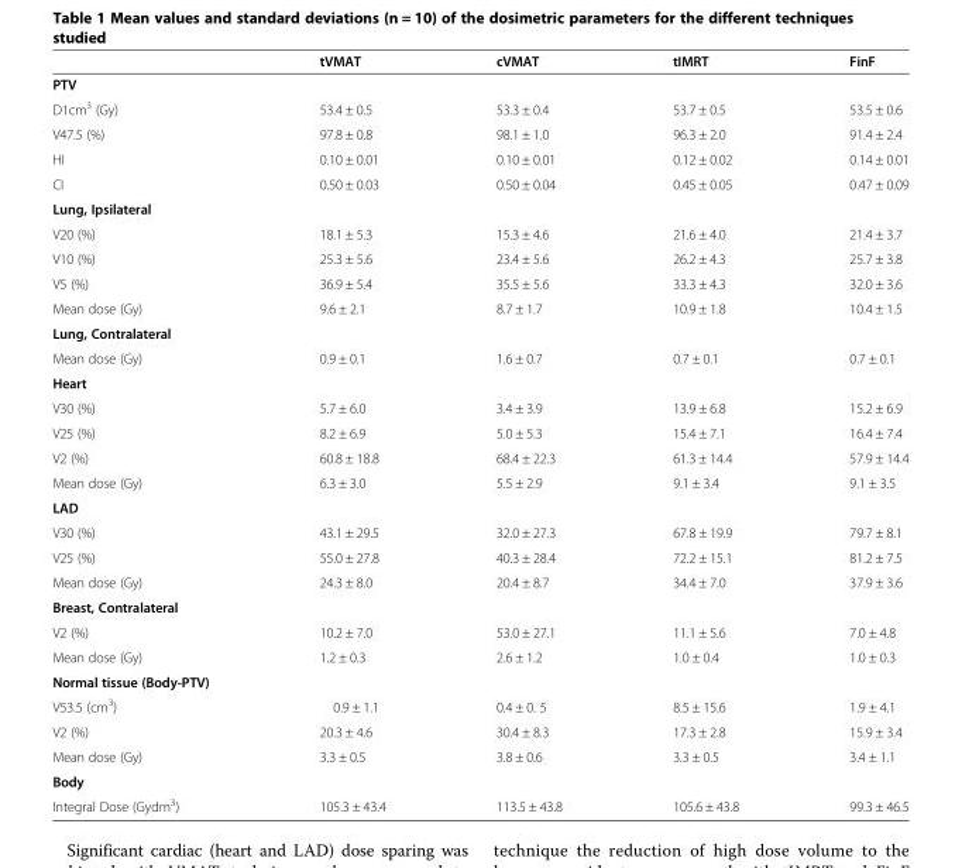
<table><thead><tr><td></td><td>tVMAT</td><td>cVMAT</td><td>tIMRT</td><td>FinF</td></tr></thead><tbody><tr><td colspan="5">PTV</td></tr><tr><td>D1cm<sup>3</sup> (Gy)</td><td>53.4 ± 0.5</td><td>53.3 ± 0.4</td><td>53.7 ± 0.5</td><td>53.5 ± 0.6</td></tr><tr><td>V47.5 (%)</td><td>97.8 ± 0.8</td><td>98.1 ± 1.0</td><td>96.3 ± 2.0</td><td>91.4 ± 2.4</td></tr><tr><td>HI</td><td>0.10 ± 0.01</td><td>0.10 ± 0.01</td><td>0.12 ± 0.02</td><td>0.14 ± 0.01</td></tr><tr><td>CI</td><td>0.50 ± 0.03</td><td>0.50 ± 0.04</td><td>0.45 ± 0.05</td><td>0.47 ± 0.09</td></tr><tr><td colspan="5">Lung, Ipsilateral</td></tr><tr><td>V20 (%)</td><td>18.1 ± 5.3</td><td>15.3 ± 4.6</td><td>21.6 ± 4.0</td><td>21.4 ± 3.7</td></tr><tr><td>V10 (%)</td><td>25.3 ± 5.6</td><td>23.4 ± 5.6</td><td>26.2 ± 4.3</td><td>25.7 ± 3.8</td></tr><tr><td>V5 (%)</td><td>36.9 ± 5.4</td><td>35.5 ± 5.6</td><td>33.3 ± 4.3</td><td>32.0 ± 3.6</td></tr><tr><td>Mean dose (Gy)</td><td>9.6 ± 2.1</td><td>8.7 ± 1.7</td><td>10.9 ± 1.8</td><td>10.4 ± 1.5</td></tr><tr><td colspan="5">Lung, Contralateral</td></tr><tr><td>Mean dose (Gy)</td><td>0.9 ± 0.1</td><td>1.6 ± 0.7</td><td>0.7 ± 0.1</td><td>0.7 ± 0.1</td></tr><tr><td colspan="5">Heart</td></tr><tr><td>V30 (%)</td><td>5.7 ± 6.0</td><td>3.4 ± 3.9</td><td>13.9 ± 6.8</td><td>15.2 ± 6.9</td></tr><tr><td>V25 (%)</td><td>8.2 ± 6.9</td><td>5.0 ± 5.3</td><td>15.4 ± 7.1</td><td>16.4 ± 7.4</td></tr><tr><td>V2 (%)</td><td>60.8 ± 18.8</td><td>68.4 ± 22.3</td><td>61.3 ± 14.4</td><td>57.9 ± 14.4</td></tr><tr><td>Mean dose (Gy)</td><td>6.3 ± 3.0</td><td>5.5 ± 2.9</td><td>9.1 ± 3.4</td><td>9.1 ± 3.5</td></tr><tr><td colspan="5">LAD</td></tr><tr><td>V30 (%)</td><td>43.1 ± 29.5</td><td>32.0 ± 27.3</td><td>67.8 ± 19.9</td><td>79.7 ± 8.1</td></tr><tr><td>V25 (%)</td><td>55.0 ± 27.8</td><td>40.3 ± 28.4</td><td>72.2 ± 15.1</td><td>81.2 ± 7.5</td></tr><tr><td>Mean dose (Gy)</td><td>24.3 ± 8.0</td><td>20.4 ± 8.7</td><td>34.4 ± 7.0</td><td>37.9 ± 3.6</td></tr><tr><td colspan="5">Breast, Contralateral</td></tr><tr><td>V2 (%)</td><td>10.2 ± 7.0</td><td>53.0 ± 27.1</td><td>11.1 ± 5.6</td><td>7.0 ± 4.8</td></tr><tr><td>Mean dose (Gy)</td><td>1.2 ± 0.3</td><td>2.6 ± 1.2</td><td>1.0 ± 0.4</td><td>1.0 ± 0.3</td></tr><tr><td colspan="5">Normal tissue (Body-PTV)</td></tr><tr><td>V53.5 (cm<sup>3</sup>)</td><td>0.9 ± 1.1</td><td>0.4 ± 0. 5</td><td>8.5 ± 15.6</td><td>1.9 ± 4.1</td></tr><tr><td>V2 (%)</td><td>20.3 ± 4.6</td><td>30.4 ± 8.3</td><td>17.3 ± 2.8</td><td>15.9 ± 3.4</td></tr><tr><td>Mean dose (Gy)</td><td>3.3 ± 0.5</td><td>3.8 ± 0.6</td><td>3.3 ± 0.5</td><td>3.4 ± 1.1</td></tr><tr><td colspan="5">Body</td></tr><tr><td>Integral Dose (Gydm<sup>3</sup>)</td><td>105.3 ± 43.4</td><td>113.5 ± 43.8</td><td>105.6 ± 43.8</td><td>99.3 ± 46.5</td></tr></tbody></table>